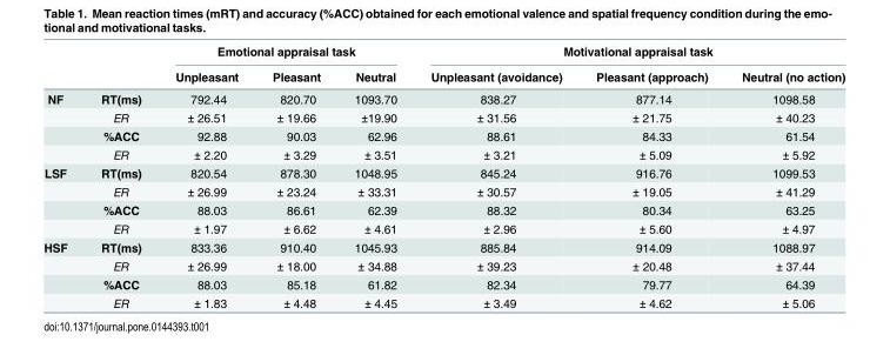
<table><thead><tr><td rowspan="2"></td><td rowspan="2"></td><td colspan="3">Emotional appraisal task</td><td colspan="3">Motivational appraisal task</td></tr><tr><td>Unpleasant</td><td>Pleasant</td><td>Neutral</td><td>Unpleasant (avoidance)</td><td>Pleasant (approach)</td><td>Neutral (no action)</td></tr></thead><tbody><tr><td rowspan="4">NF</td><td>RT(ms)</td><td>792.44</td><td>820.70</td><td>1093.70</td><td>838.27</td><td>877.14</td><td>1098.58</td></tr><tr><td>ER</td><td>± 26.51</td><td>± 19.66</td><td>±19.90</td><td>± 31.56</td><td>± 21.75</td><td>± 40.23</td></tr><tr><td>%ACC</td><td>92.88</td><td>90.03</td><td>62.96</td><td>88.61</td><td>84.33</td><td>61.54</td></tr><tr><td>ER</td><td>± 2.20</td><td>± 3.29</td><td>± 3.51</td><td>± 3.21</td><td>± 5.09</td><td>± 5.92</td></tr><tr><td rowspan="4">LSF</td><td>RT(ms)</td><td>820.54</td><td>878.30</td><td>1048.95</td><td>845.24</td><td>916.76</td><td>1099.53</td></tr><tr><td>ER</td><td>± 26.99</td><td>± 23.24</td><td>± 33.31</td><td>± 30.57</td><td>± 19.05</td><td>± 41.29</td></tr><tr><td>%ACC</td><td>88.03</td><td>86.61</td><td>62.39</td><td>88.32</td><td>80.34</td><td>63.25</td></tr><tr><td>ER</td><td>± 1.97</td><td>± 6.62</td><td>± 4.61</td><td>± 2.96</td><td>± 5.60</td><td>± 4.97</td></tr><tr><td rowspan="4">HSF</td><td>RT(ms)</td><td>833.36</td><td>910.40</td><td>1045.93</td><td>885.84</td><td>914.09</td><td>1088.97</td></tr><tr><td>ER</td><td>± 26.99</td><td>± 18.00</td><td>± 34.88</td><td>± 39.23</td><td>± 20.48</td><td>± 37.44</td></tr><tr><td>%ACC</td><td>88.03</td><td>85.18</td><td>61.82</td><td>82.34</td><td>79.77</td><td>64.39</td></tr><tr><td>ER</td><td>± 1.83</td><td>± 4.48</td><td>± 4.45</td><td>± 3.49</td><td>± 4.62</td><td>± 5.06</td></tr></tbody></table>